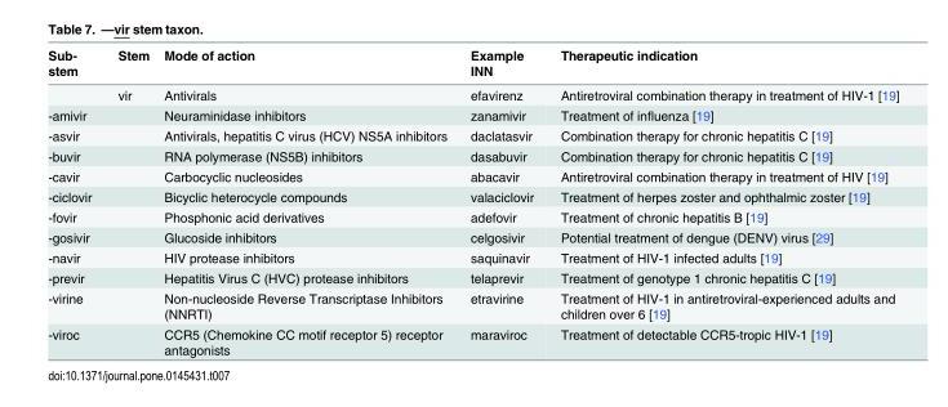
<table><thead><tr><td>Sub- stem</td><td>Stem</td><td>Mode of action</td><td>Example INN</td><td>Therapeutic indication</td></tr></thead><tbody><tr><td></td><td>vir</td><td>Antivirals</td><td>efavirenz</td><td>Antiretroviral combination therapy in treatment of HIV-1 [19]</td></tr><tr><td>-amivir</td><td></td><td>Neuraminidase inhibitors</td><td>zanamivir</td><td>Treatment of influenza [19]</td></tr><tr><td>-asvir</td><td></td><td>Antivirals, hepatitis C virus (HCV) NS5A inhibitors</td><td>daclatasvir</td><td>Combination therapy for chronic hepatitis C [19]</td></tr><tr><td>-buvir</td><td></td><td>RNA polymerase (NS5B) inhibitors</td><td>dasabuvir</td><td>Combination therapy for chronic hepatitis C [19]</td></tr><tr><td>-cavir</td><td></td><td>Carbocyclic nucleosides</td><td>abacavir</td><td>Antiretroviral combination therapy in treatment of HIV [19]</td></tr><tr><td>-ciclovir</td><td></td><td>Bicyclic heterocycle compounds</td><td>valaciclovir</td><td>Treatment of herpes zoster and ophthalmic zoster [19]</td></tr><tr><td>-fovir</td><td></td><td>Phosphonic acid derivatives</td><td>adefovir</td><td>Treatment of chronic hepatitis B [19]</td></tr><tr><td>-gosivir</td><td></td><td>Glucoside inhibitors</td><td>celgosivir</td><td>Potential treatment of dengue (DENV) virus [29]</td></tr><tr><td>-navir</td><td></td><td>HIV protease inhibitors</td><td>saquinavir</td><td>Treatment of HIV-1 infected adults [19]</td></tr><tr><td>-previr</td><td></td><td>Hepatitis Virus C (HVC) protease inhibitors</td><td>telaprevir</td><td>Treatment of genotype 1 chronic hepatitis C [19]</td></tr><tr><td>-virine</td><td></td><td>Non-nucleoside Reverse Transcriptase Inhibitors (NNRTI)</td><td>etravirine</td><td>Treatment of HIV-1 in antiretroviral-experienced adults and children over 6 [19]</td></tr><tr><td>-viroc</td><td></td><td>CCR5 (Chemokine CC motif receptor 5) receptor antagonists</td><td>maraviroc</td><td>Treatment of detectable CCR5-tropic HIV-1 [19]</td></tr></tbody></table>